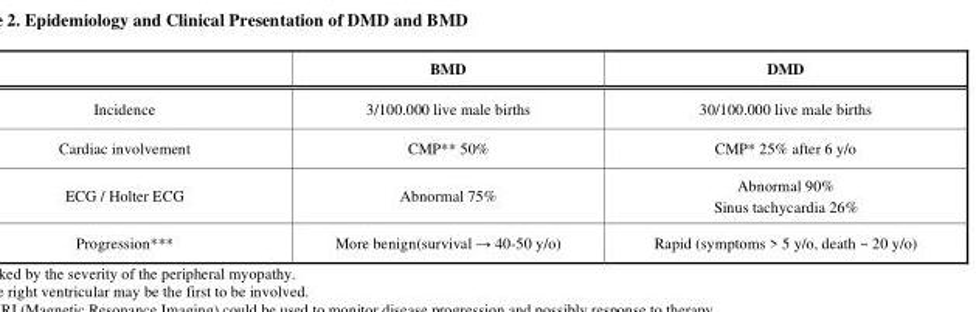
<table><thead><tr><td></td><td>BMD</td><td>DMD</td></tr></thead><tbody><tr><td>Incidence</td><td>3/100.000 live male births</td><td>30/100.000 live male births</td></tr><tr><td>Cardiac involvement</td><td>CMP** 50%</td><td>CMP* 25% after 6 y/o</td></tr><tr><td>ECG / Holter ECG</td><td>Abnormal 75%</td><td>Abnormal 90% Sinus tachycardia 26%</td></tr><tr><td>Progression***</td><td>More benign(survival → 40-50 y/o)</td><td>Rapid (symptoms &gt; 5 y/o, death ~ 20 y/o)</td></tr></tbody></table>